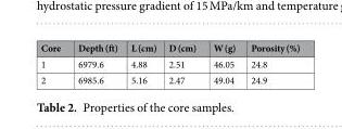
<table><thead><tr><td>Core</td><td>Depth (ft)</td><td>L (cm)</td><td>D (cm)</td><td>W (g)</td><td>Porosity (%)</td></tr></thead><tbody><tr><td>1</td><td>6979.6</td><td>4.88</td><td>2.51</td><td>46.05</td><td>24.8</td></tr><tr><td>2</td><td>6985.6</td><td>5.16</td><td>2.47</td><td>49.04</td><td>24.9</td></tr></tbody></table>